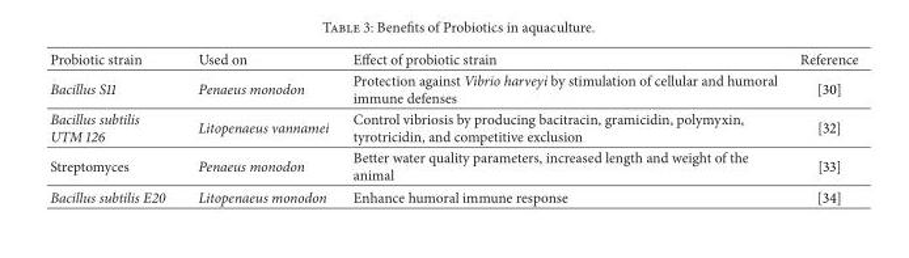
<table><thead><tr><td>Probiotic strain</td><td>Used on</td><td>Effect of probiotic strain</td><td>Reference</td></tr></thead><tbody><tr><td>Bacillus S11</td><td>Penaeus monodon</td><td>Protection against Vibrio harveyi by stimulation of cellular and humoral immune defenses</td><td>[30]</td></tr><tr><td>Bacillus subtilis UTM 126</td><td>Litopenaeus vannamei</td><td>Control vibriosis by producing bacitracin, gramicidin, polymyxin, tyrotricidin, and competitive exclusion</td><td>[32]</td></tr><tr><td>Streptomyces</td><td>Penaeus monodon</td><td>Better water quality parameters, increased length and weight of the animal</td><td>[33]</td></tr><tr><td>Bacillus subtilis E20</td><td>Litopenaeus monodon</td><td>Enhance humoral immune response</td><td>[34]</td></tr></tbody></table>